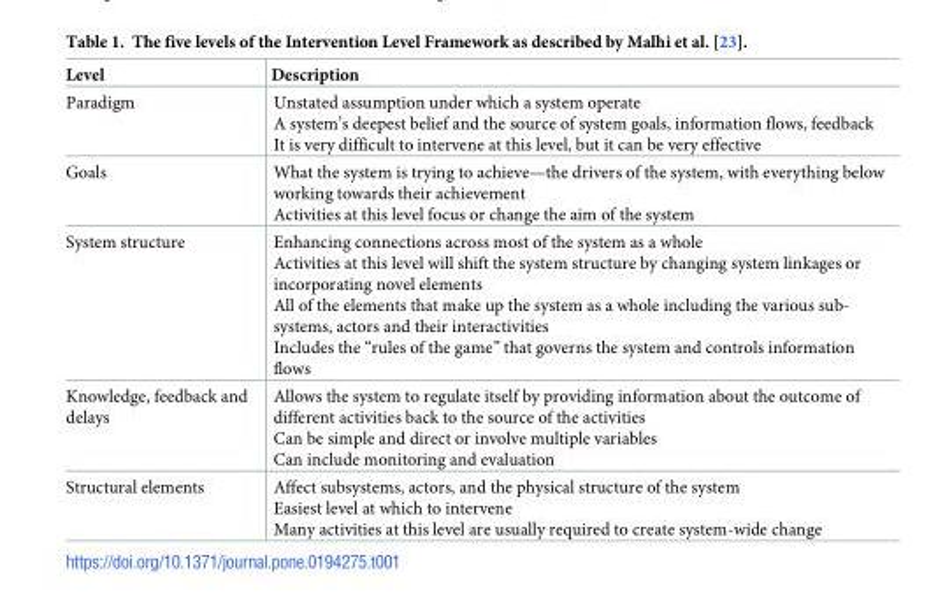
<table><thead><tr><td>Level</td><td>Description</td></tr></thead><tbody><tr><td>Paradigm</td><td>Unstated assumption under which a system operate A system’s deepest belief and the source of system goals, information flows, feedback It is very difficult to intervene at this level, but it can be very effective</td></tr><tr><td>Goals</td><td>What the system is trying to achieve—the drivers of the system, with everything below working towards their achievement Activities at this level focus or change the aim of the system</td></tr><tr><td>System structure</td><td>Enhancing connections across most of the system as a whole Activities at this level will shift the system structure by changing system linkages or incorporating novel elements All of the elements that make up the system as a whole including the various sub- systems, actors and their interactivities Includes the “rules of the game” that governs the system and controls information flows</td></tr><tr><td>Knowledge, feedback and delays</td><td>Allows the system to regulate itself by providing information about the outcome of different activities back to the source of the activities Can be simple and direct or involve multiple variables Can include monitoring and evaluation</td></tr><tr><td>Structural elements</td><td>Affect subsystems, actors, and the physical structure of the system Easiest level at which to intervene Many activities at this level are usually required to create system-wide change</td></tr></tbody></table>